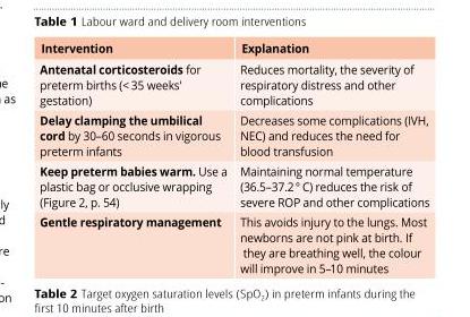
<table><thead><tr><td>Intervention</td><td>Explanation</td></tr></thead><tbody><tr><td>Antenatal corticosteroids for preterm births (&lt; 35 weeks&#x27; gestation)</td><td>Reduces mortality, the severity of respiratory distress and other complications</td></tr><tr><td>Delay clamping the umbilical cord by 30–60 seconds in vigorous preterm infants</td><td>Decreases some complications (IVH, NEC) and reduces the need for blood transfusion</td></tr><tr><td>Keep preterm babies warm. Use a plastic bag or occlusive wrapping (Figure 2, p. 54)</td><td>Maintaining normal temperature (36.5–37.2 ° C) reduces the risk of severe ROP and other complications</td></tr><tr><td>Gentle respiratory management</td><td>This avoids injury to the lungs. Most newborns are not pink at birth. If they are breathing well, the colour will improve in 5–10 minutes</td></tr></tbody></table>